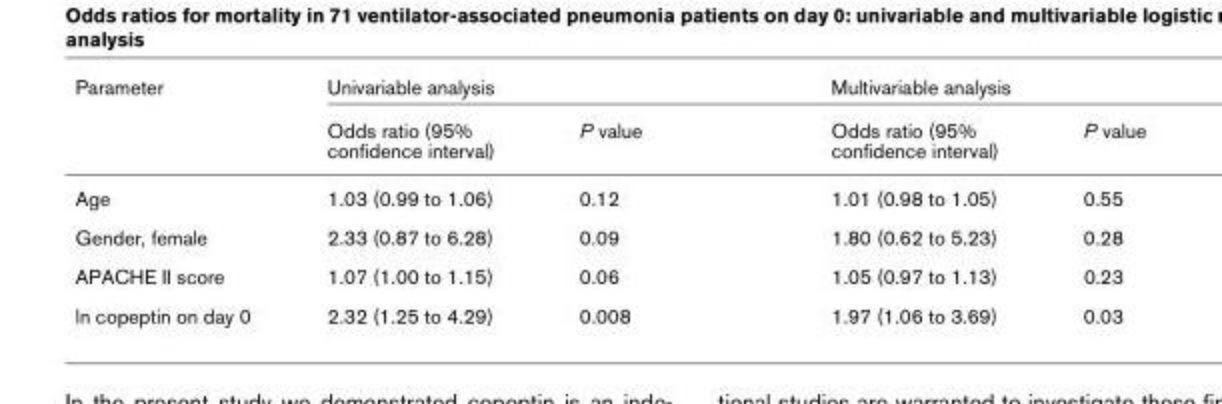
<table><thead><tr><td rowspan="2">Parameter</td><td colspan="2">Univariable analysis</td><td colspan="2">Multivariable analysis</td></tr><tr><td>Odds ratio (95% confidence interval)</td><td>P value</td><td>Odds ratio (95% confidence interval)</td><td>P value</td></tr></thead><tbody><tr><td>Age</td><td>1.03 (0.99 to 1.06)</td><td>0.12</td><td>1.01 (0.98 to 1.05)</td><td>0.55</td></tr><tr><td>Gender, female</td><td>2.33 (0.87 to 6.28)</td><td>0.09</td><td>1.80 (0.62 to 5.23)</td><td>0.28</td></tr><tr><td>APACHE II score</td><td>1.07 (1.00 to 1.15)</td><td>0.06</td><td>1.05 (0.97 to 1.13)</td><td>0.23</td></tr><tr><td>ln copeptin on day 0</td><td>2.32 (1.25 to 4.29)</td><td>0.008</td><td>1.97 (1.06 to 3.69)</td><td>0.03</td></tr></tbody></table>